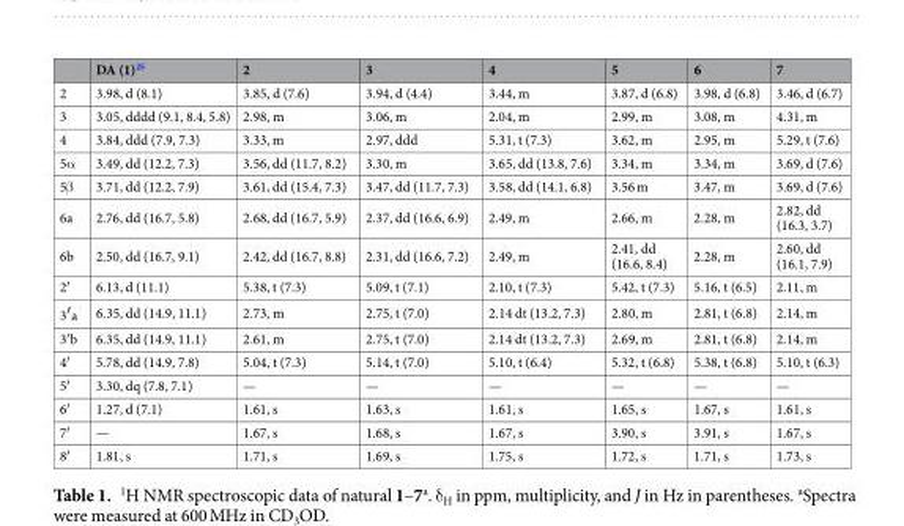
<table><thead><tr><td></td><td>DA (1)<sup>25</sup></td><td>2</td><td>3</td><td>4</td><td>5</td><td>6</td><td>7</td></tr></thead><tbody><tr><td>2</td><td>3.98, d (8.1)</td><td>3.85, d (7.6)</td><td>3.94, d (4.4)</td><td>3.44, m</td><td>3.87, d (6.8)</td><td>3.98, d (6.8)</td><td>3.46, d (6.7)</td></tr><tr><td>3</td><td>3.05, dddd (9.1, 8.4, 5.8)</td><td>2.98, m</td><td>3.06, m</td><td>2.04, m</td><td>2.99, m</td><td>3.08, m</td><td>4.31, m</td></tr><tr><td>4</td><td>3.84, ddd (7.9, 7.3)</td><td>3.33, m</td><td>2.97, ddd</td><td>5.31, t (7.3)</td><td>3.62, m</td><td>2.95, m</td><td>5.29, t (7.6)</td></tr><tr><td>5α</td><td>3.49, dd (12.2, 7.3)</td><td>3.56, dd (11.7, 8.2)</td><td>3.30, m</td><td>3.65, dd (13.8, 7.6)</td><td>3.34, m</td><td>3.34, m</td><td>3.69, d (7.6)</td></tr><tr><td>5β</td><td>3.71, dd (12.2, 7.9)</td><td>3.61, dd (15.4, 7.3)</td><td>3.47, dd (11.7, 7.3)</td><td>3.58, dd (14.1, 6.8)</td><td>3.56 m</td><td>3.47, m</td><td>3.69, d (7.6)</td></tr><tr><td>6a</td><td>2.76, dd (16.7, 5.8)</td><td>2.68, dd (16.7, 5.9)</td><td>2.37, dd (16.6, 6.9)</td><td>2.49, m</td><td>2.66, m</td><td>2.28, m</td><td>2.82, dd (16.3, 3.7)</td></tr><tr><td>6b</td><td>2.50, dd (16.7, 9.1)</td><td>2.42, dd (16.7, 8.8)</td><td>2.31, dd (16.6, 7.2)</td><td>2.49, m</td><td>2.41, dd (16.6, 8.4)</td><td>2.28, m</td><td>2.60, dd (16.1, 7.9)</td></tr><tr><td>2′</td><td>6.13, d (11.1)</td><td>5.38, t (7.3)</td><td>5.09, t (7.1)</td><td>2.10, t (7.3)</td><td>5.42, t (7.3)</td><td>5.16, t (6.5)</td><td>2.11, m</td></tr><tr><td>3′a</td><td>6.35, dd (14.9, 11.1)</td><td>2.73, m</td><td>2.75, t (7.0)</td><td>2.14 dt (13.2, 7.3)</td><td>2.80, m</td><td>2.81, t (6.8)</td><td>2.14, m</td></tr><tr><td>3′b</td><td>6.35, dd (14.9, 11.1)</td><td>2.61, m</td><td>2.75, t (7.0)</td><td>2.14 dt (13.2, 7.3)</td><td>2.69, m</td><td>2.81, t (6.8)</td><td>2.14, m</td></tr><tr><td>4′</td><td>5.78, dd (14.9, 7.8)</td><td>5.04, t (7.3)</td><td>5.14, t (7.0)</td><td>5.10, t (6.4)</td><td>5.32, t (6.8)</td><td>5.38, t (6.8)</td><td>5.10, t (6.3)</td></tr><tr><td>5′</td><td>3.30, dq (7.8, 7.1)</td><td>—</td><td>—</td><td>—</td><td>—</td><td>—</td><td>—</td></tr><tr><td>6′</td><td>1.27, d (7.1)</td><td>1.61, s</td><td>1.63, s</td><td>1.61, s</td><td>1.65, s</td><td>1.67, s</td><td>1.61, s</td></tr><tr><td>7′</td><td>—</td><td>1.67, s</td><td>1.68, s</td><td>1.67, s</td><td>3.90, s</td><td>3.91, s</td><td>1.67, s</td></tr><tr><td>8′</td><td>1.81, s</td><td>1.71, s</td><td>1.69, s</td><td>1.75, s</td><td>1.72, s</td><td>1.71, s</td><td>1.73, s</td></tr></tbody></table>